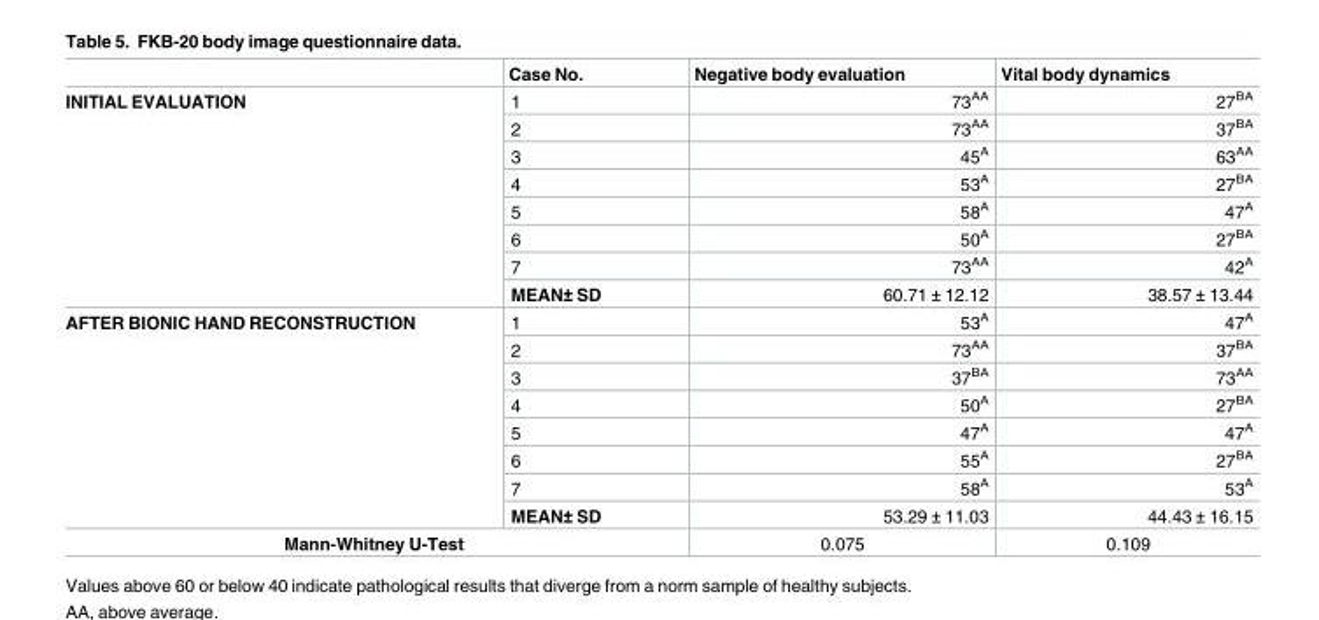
<table><thead><tr><td></td><td>Case No.</td><td>Negative body evaluation</td><td>Vital body dynamics</td></tr></thead><tbody><tr><td rowspan="8">INITIAL EVALUATION</td><td>1</td><td>73<sup>AA</sup></td><td>27<sup>BA</sup></td></tr><tr><td>2</td><td>73<sup>AA</sup></td><td>37<sup>BA</sup></td></tr><tr><td>3</td><td>45<sup>A</sup></td><td>63<sup>AA</sup></td></tr><tr><td>4</td><td>53<sup>A</sup></td><td>27<sup>BA</sup></td></tr><tr><td>5</td><td>58<sup>A</sup></td><td>47<sup>A</sup></td></tr><tr><td>6</td><td>50<sup>A</sup></td><td>27<sup>BA</sup></td></tr><tr><td>7</td><td>73<sup>AA</sup></td><td>42<sup>A</sup></td></tr><tr><td>MEAN± SD</td><td>60.71 ± 12.12</td><td>38.57 ± 13.44</td></tr><tr><td rowspan="8">AFTER BIONIC HAND RECONSTRUCTION</td><td>1</td><td>53<sup>A</sup></td><td>47<sup>A</sup></td></tr><tr><td>2</td><td>73<sup>AA</sup></td><td>37<sup>BA</sup></td></tr><tr><td>3</td><td>37<sup>BA</sup></td><td>73<sup>AA</sup></td></tr><tr><td>4</td><td>50<sup>A</sup></td><td>27<sup>BA</sup></td></tr><tr><td>5</td><td>47<sup>A</sup></td><td>47<sup>A</sup></td></tr><tr><td>6</td><td>55<sup>A</sup></td><td>27<sup>BA</sup></td></tr><tr><td>7</td><td>58<sup>A</sup></td><td>53<sup>A</sup></td></tr><tr><td>MEAN± SD</td><td>53.29 ± 11.03</td><td>44.43 ± 16.15</td></tr><tr><td colspan="2">Mann-Whitney U-Test</td><td>0.075</td><td>0.109</td></tr></tbody></table>